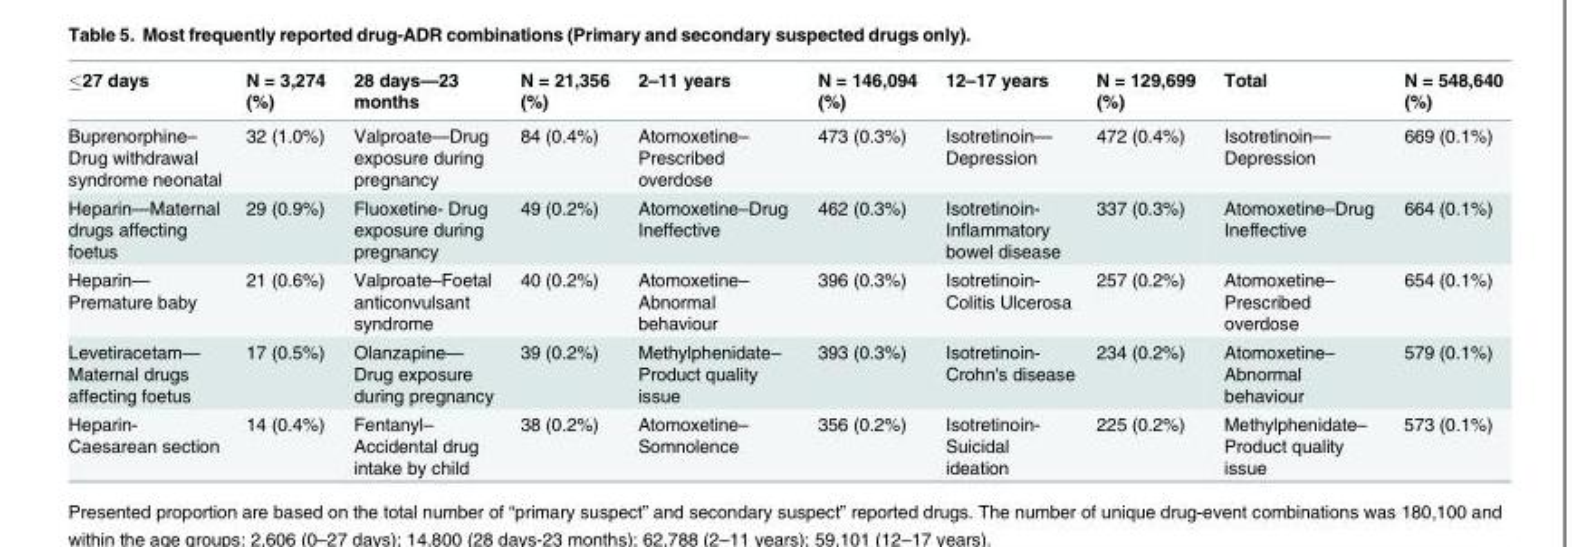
<table><thead><tr><td>≤27 days</td><td>N = 3,274 (%)</td><td>28 days—23 months</td><td>N = 21,356 (%)</td><td>2–11 years</td><td>N = 146,094 (%)</td><td>12–17 years</td><td>N = 129,699 (%)</td><td>Total</td><td>N = 548,640 (%)</td></tr></thead><tbody><tr><td>Buprenorphine– Drug withdrawal syndrome neonatal</td><td>32 (1.0%)</td><td>Valproate—Drug exposure during pregnancy</td><td>84 (0.4%)</td><td>Atomoxetine– Prescribed overdose</td><td>473 (0.3%)</td><td>Isotretinoin— Depression</td><td>472 (0.4%)</td><td>Isotretinoin— Depression</td><td>669 (0.1%)</td></tr><tr><td>Heparin—Maternal drugs affecting foetus</td><td>29 (0.9%)</td><td>Fluoxetine- Drug exposure during pregnancy</td><td>49 (0.2%)</td><td>Atomoxetine–Drug Ineffective</td><td>462 (0.3%)</td><td>Isotretinoin- Inflammatory bowel disease</td><td>337 (0.3%)</td><td>Atomoxetine–Drug Ineffective</td><td>664 (0.1%)</td></tr><tr><td>Heparin— Premature baby</td><td>21 (0.6%)</td><td>Valproate–Foetal anticonvulsant syndrome</td><td>40 (0.2%)</td><td>Atomoxetine– Abnormal behaviour</td><td>396 (0.3%)</td><td>Isotretinoin- Colitis Ulcerosa</td><td>257 (0.2%)</td><td>Atomoxetine– Prescribed overdose</td><td>654 (0.1%)</td></tr><tr><td>Levetiracetam— Maternal drugs affecting foetus</td><td>17 (0.5%)</td><td>Olanzapine— Drug exposure during pregnancy</td><td>39 (0.2%)</td><td>Methylphenidate– Product quality issue</td><td>393 (0.3%)</td><td>Isotretinoin- Crohn&#x27;s disease</td><td>234 (0.2%)</td><td>Atomoxetine– Abnormal behaviour</td><td>579 (0.1%)</td></tr><tr><td>Heparin- Caesarean section</td><td>14 (0.4%)</td><td>Fentanyl– Accidental drug intake by child</td><td>38 (0.2%)</td><td>Atomoxetine– Somnolence</td><td>356 (0.2%)</td><td>Isotretinoin- Suicidal ideation</td><td>225 (0.2%)</td><td>Methylphenidate– Product quality issue</td><td>573 (0.1%)</td></tr></tbody></table>